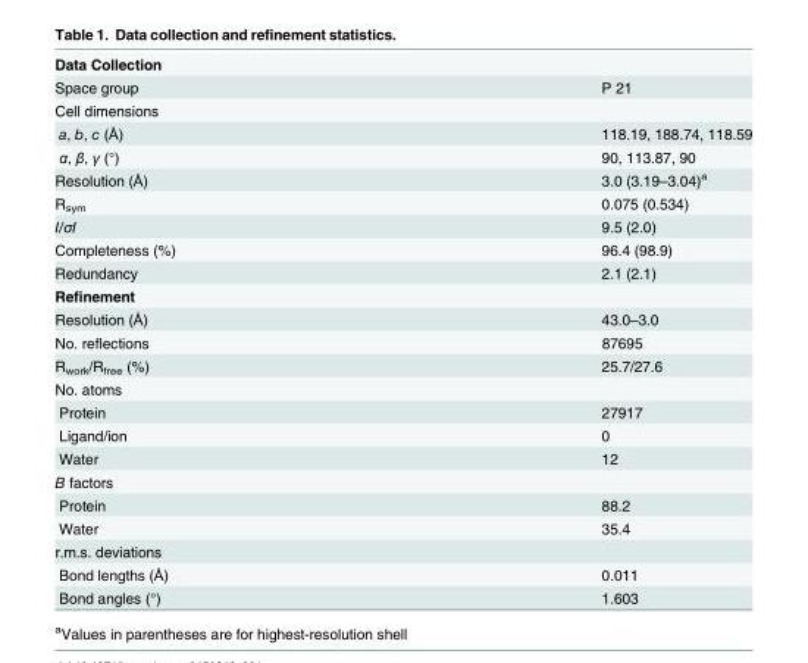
<table><tbody><tr><td colspan="2">Data Collection</td></tr><tr><td>Space group</td><td>P 21</td></tr><tr><td colspan="2">Cell dimensions</td></tr><tr><td>a, b, c (Å)</td><td>118.19, 188.74, 118.59</td></tr><tr><td>α, β, γ (°)</td><td>90, 113.87, 90</td></tr><tr><td>Resolution (Å)</td><td>3.0 (3.19–3.04)<sup>a</sup></td></tr><tr><td>R<sub>sym</sub></td><td>0.075 (0.534)</td></tr><tr><td>I/σI</td><td>9.5 (2.0)</td></tr><tr><td>Completeness (%)</td><td>96.4 (98.9)</td></tr><tr><td>Redundancy</td><td>2.1 (2.1)</td></tr><tr><td colspan="2">Refinement</td></tr><tr><td>Resolution (Å)</td><td>43.0–3.0</td></tr><tr><td>No. reflections</td><td>87695</td></tr><tr><td>R<sub>work</sub>/R<sub>free</sub> (%)</td><td>25.7/27.6</td></tr><tr><td colspan="2">No. atoms</td></tr><tr><td>Protein</td><td>27917</td></tr><tr><td>Ligand/ion</td><td>0</td></tr><tr><td>Water</td><td>12</td></tr><tr><td colspan="2">B factors</td></tr><tr><td>Protein</td><td>88.2</td></tr><tr><td>Water</td><td>35.4</td></tr><tr><td colspan="2">r.m.s. deviations</td></tr><tr><td>Bond lengths (Å)</td><td>0.011</td></tr><tr><td>Bond angles (°)</td><td>1.603</td></tr></tbody></table>